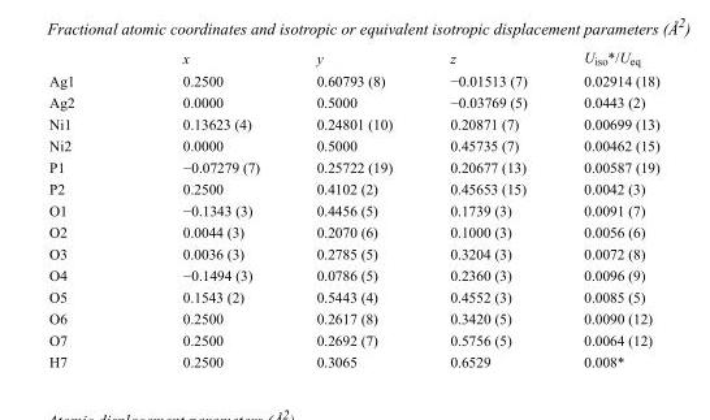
<table><thead><tr><td></td><td>x</td><td>y</td><td>z</td><td>U<sub>iso</sub>*/U<sub>eq</sub></td></tr></thead><tbody><tr><td>Ag1</td><td>0.2500</td><td>0.60793 (8)</td><td>−0.01513 (7)</td><td>0.02914 (18)</td></tr><tr><td>Ag2</td><td>0.0000</td><td>0.5000</td><td>−0.03769 (5)</td><td>0.0443 (2)</td></tr><tr><td>Ni1</td><td>0.13623 (4)</td><td>0.24801 (10)</td><td>0.20871 (7)</td><td>0.00699 (13)</td></tr><tr><td>Ni2</td><td>0.0000</td><td>0.5000</td><td>0.45735 (7)</td><td>0.00462 (15)</td></tr><tr><td>P1</td><td>−0.07279 (7)</td><td>0.25722 (19)</td><td>0.20677 (13)</td><td>0.00587 (19)</td></tr><tr><td>P2</td><td>0.2500</td><td>0.4102 (2)</td><td>0.45653 (15)</td><td>0.0042 (3)</td></tr><tr><td>O1</td><td>−0.1343 (3)</td><td>0.4456 (5)</td><td>0.1739 (3)</td><td>0.0091 (7)</td></tr><tr><td>O2</td><td>0.0044 (3)</td><td>0.2070 (6)</td><td>0.1000 (3)</td><td>0.0056 (6)</td></tr><tr><td>O3</td><td>0.0036 (3)</td><td>0.2785 (5)</td><td>0.3204 (3)</td><td>0.0072 (8)</td></tr><tr><td>O4</td><td>−0.1494 (3)</td><td>0.0786 (5)</td><td>0.2360 (3)</td><td>0.0096 (9)</td></tr><tr><td>O5</td><td>0.1543 (2)</td><td>0.5443 (4)</td><td>0.4552 (3)</td><td>0.0085 (5)</td></tr><tr><td>O6</td><td>0.2500</td><td>0.2617 (8)</td><td>0.3420 (5)</td><td>0.0090 (12)</td></tr><tr><td>O7</td><td>0.2500</td><td>0.2692 (7)</td><td>0.5756 (5)</td><td>0.0064 (12)</td></tr><tr><td>H7</td><td>0.2500</td><td>0.3065</td><td>0.6529</td><td>0.008*</td></tr></tbody></table>